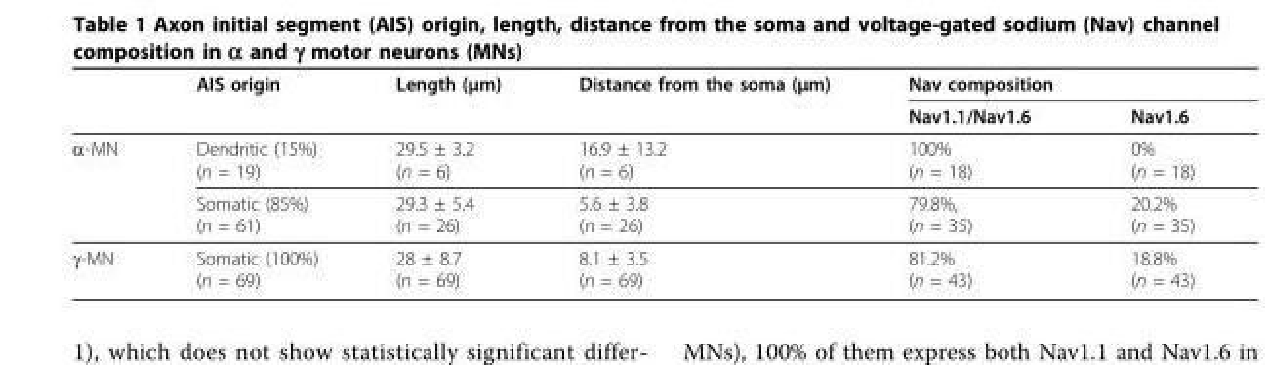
<table><thead><tr><td rowspan="2"></td><td rowspan="2">AIS origin</td><td rowspan="2">Length (μm)</td><td rowspan="2">Distance from the soma (μm)</td><td rowspan="2">Nav composition Nav1.1/Nav1.6</td><td rowspan="2">Nav1.6</td></tr><tr></tr></thead><tbody><tr><td rowspan="2">α-MN</td><td>Dendritic (15%) (n = 19)</td><td>29.5 ± 3.2 (n = 6)</td><td>16.9 ± 13.2 (n = 6)</td><td>100% (n = 18)</td><td>0% (n = 18)</td></tr><tr><td>Somatic (85%) (n = 61)</td><td>29.3 ± 5.4 (n = 26)</td><td>5.6 ± 3.8 (n = 26)</td><td>79.8%, (n = 35)</td><td>20.2% (n = 35)</td></tr><tr><td>γ-MN</td><td>Somatic (100%) (n = 69)</td><td>28 ± 8.7 (n = 69)</td><td>8.1 ± 3.5 (n = 69)</td><td>81.2% (n = 43)</td><td>18.8% (n = 43)</td></tr></tbody></table>